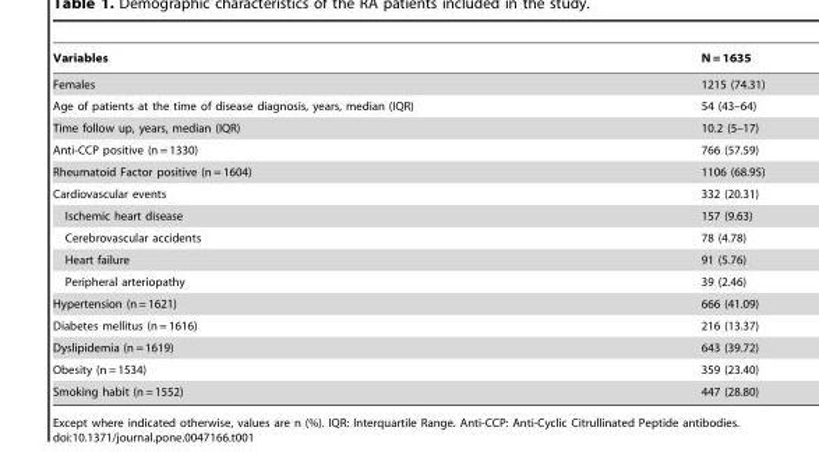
<table><thead><tr><td>Variables</td><td>N = 1635</td></tr></thead><tbody><tr><td>Females</td><td>1215 (74.31)</td></tr><tr><td>Age of patients at the time of disease diagnosis, years, median (IQR)</td><td>54 (43–64)</td></tr><tr><td>Time follow up, years, median (IQR)</td><td>10.2 (5–17)</td></tr><tr><td>Anti-CCP positive (n = 1330)</td><td>766 (57.59)</td></tr><tr><td>Rheumatoid Factor positive (n = 1604)</td><td>1106 (68.95)</td></tr><tr><td>Cardiovascular events</td><td>332 (20.31)</td></tr><tr><td>Ischemic heart disease</td><td>157 (9.63)</td></tr><tr><td>Cerebrovascular accidents</td><td>78 (4.78)</td></tr><tr><td>Heart failure</td><td>91 (5.76)</td></tr><tr><td>Peripheral arteriopathy</td><td>39 (2.46)</td></tr><tr><td>Hypertension (n = 1621)</td><td>666 (41.09)</td></tr><tr><td>Diabetes mellitus (n = 1616)</td><td>216 (13.37)</td></tr><tr><td>Dyslipidemia (n = 1619)</td><td>643 (39.72)</td></tr><tr><td>Obesity (n = 1534)</td><td>359 (23.40)</td></tr><tr><td>Smoking habit (n = 1552)</td><td>447 (28.80)</td></tr></tbody></table>